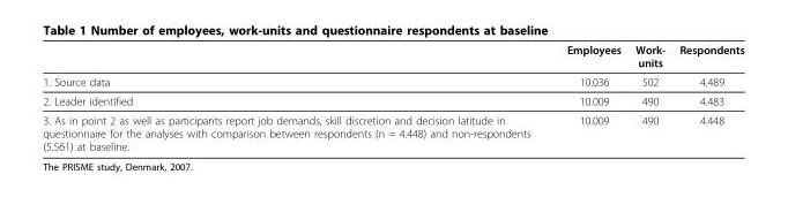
<table><thead><tr><td></td><td>Employees</td><td>Work- units</td><td>Respondents</td></tr></thead><tbody><tr><td>1. Source data</td><td>10.036</td><td>502</td><td>4.489</td></tr><tr><td>2. Leader identified</td><td>10.009</td><td>490</td><td>4.483</td></tr><tr><td>3. As in point 2 as well as participants report job demands, skill discretion and decision latitude in questionnaire for the analyses with comparison between respondents (n = 4.448) and non-respondents (5.561) at baseline.</td><td>10.009</td><td>490</td><td>4.448</td></tr></tbody></table>